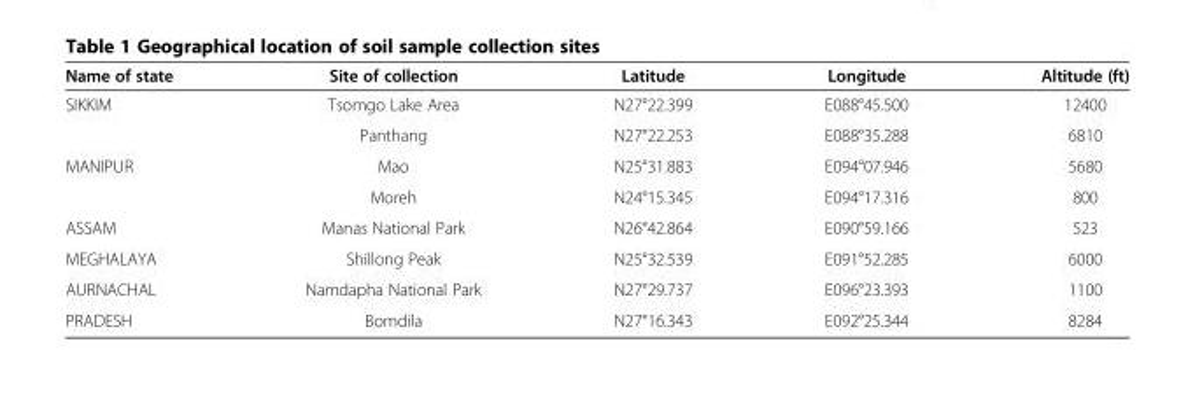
<table><thead><tr><td>Name of state</td><td>Site of collection</td><td>Latitude</td><td>Longitude</td><td>Altitude (ft)</td></tr></thead><tbody><tr><td rowspan="2">SIKKIM</td><td>Tsomgo Lake Area</td><td>N27°22.399</td><td>E088°45.500</td><td>12400</td></tr><tr><td>Panthang</td><td>N27°22.253</td><td>E088°35.288</td><td>6810</td></tr><tr><td rowspan="2">MANIPUR</td><td>Mao</td><td>N25°31.883</td><td>E094°07.946</td><td>5680</td></tr><tr><td>Moreh</td><td>N24°15.345</td><td>E094°17.316</td><td>800</td></tr><tr><td>ASSAM</td><td>Manas National Park</td><td>N26°42.864</td><td>E090°59.166</td><td>523</td></tr><tr><td>MEGHALAYA</td><td>Shillong Peak</td><td>N25°32.539</td><td>E091°52.285</td><td>6000</td></tr><tr><td>AURNACHAL</td><td>Namdapha National Park</td><td>N27°29.737</td><td>E096°23.393</td><td>1100</td></tr><tr><td>PRADESH</td><td>Bomdila</td><td>N27°16.343</td><td>E092°25.344</td><td>8284</td></tr></tbody></table>